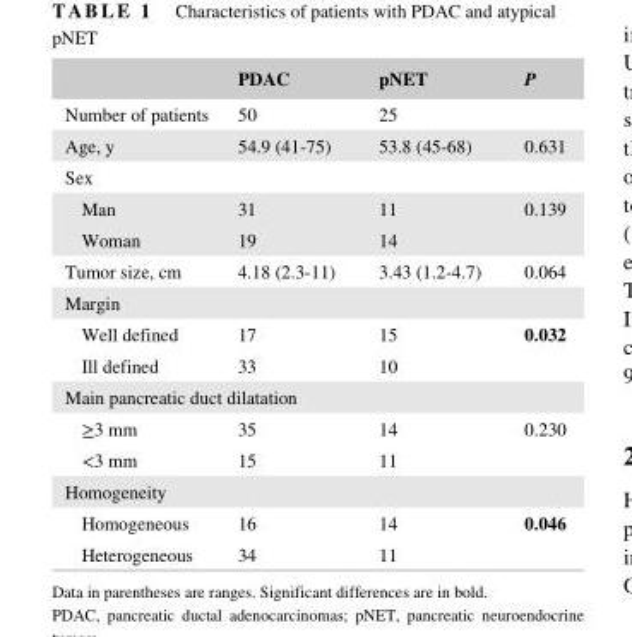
<table><thead><tr><td></td><td>PDAC</td><td>pNET</td><td>P</td></tr></thead><tbody><tr><td>Number of patients</td><td>50</td><td>25</td><td></td></tr><tr><td>Age, y</td><td>54.9 (41- 75)</td><td>53.8 (45- 68)</td><td>0.631</td></tr><tr><td colspan="4">Sex</td></tr><tr><td>Man</td><td>31</td><td>11</td><td rowspan="2">0.139</td></tr><tr><td>Woman</td><td>19</td><td>14</td></tr><tr><td>Tumor size, cm</td><td>4.18 (2.3- 11)</td><td>3.43 (1.2- 4.7)</td><td>0.064</td></tr><tr><td colspan="4">Margin</td></tr><tr><td>Well defined</td><td>17</td><td>15</td><td rowspan="2">0.032</td></tr><tr><td>Ill defined</td><td>33</td><td>10</td></tr><tr><td colspan="4">Main pancreatic duct dilatation</td></tr><tr><td>≥3 mm</td><td>35</td><td>14</td><td rowspan="2">0.230</td></tr><tr><td>&lt;3 mm</td><td>15</td><td>11</td></tr><tr><td colspan="4">Homogeneity</td></tr><tr><td>Homogeneous</td><td>16</td><td>14</td><td rowspan="2">0.046</td></tr><tr><td>Heterogeneous</td><td>34</td><td>11</td></tr></tbody></table>